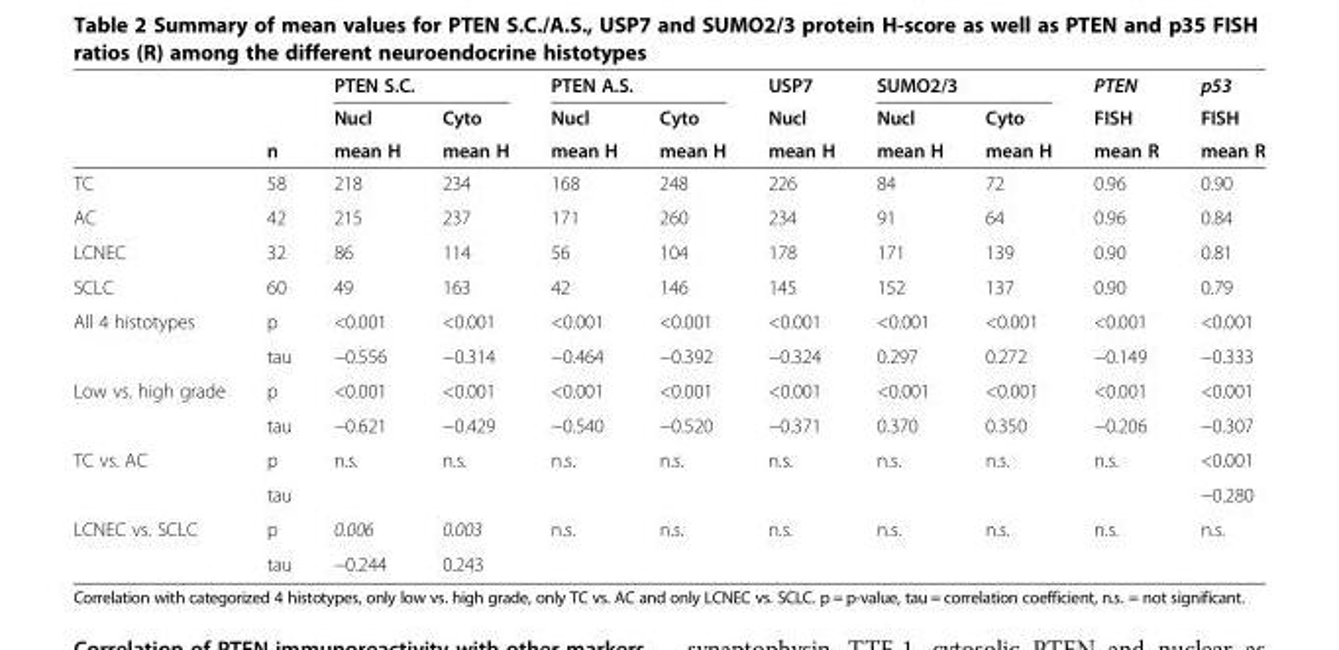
<table><thead><tr><td rowspan="3"></td><td rowspan="3">n</td><td colspan="2">PTEN S.C.</td><td colspan="2">PTEN A.S.</td><td rowspan="3">USP7 Nucl mean H</td><td colspan="2">SUMO2/3</td><td rowspan="3">PTEN FISH mean R</td><td rowspan="3">p53 FISH mean R</td></tr><tr><td rowspan="2">Nucl mean H</td><td rowspan="2">Cyto mean H</td><td rowspan="2">Nucl mean H</td><td rowspan="2">Cyto mean H</td><td rowspan="2">Nucl mean H</td><td rowspan="2">Cyto mean H</td></tr><tr></tr></thead><tbody><tr><td>TC</td><td>58</td><td>218</td><td>234</td><td>168</td><td>248</td><td>226</td><td>84</td><td>72</td><td>0.96</td><td>0.90</td></tr><tr><td>AC</td><td>42</td><td>215</td><td>237</td><td>171</td><td>260</td><td>234</td><td>91</td><td>64</td><td>0.96</td><td>0.84</td></tr><tr><td>LCNEC</td><td>32</td><td>86</td><td>114</td><td>56</td><td>104</td><td>178</td><td>171</td><td>139</td><td>0.90</td><td>0.81</td></tr><tr><td>SCLC</td><td>60</td><td>49</td><td>163</td><td>42</td><td>146</td><td>145</td><td>152</td><td>137</td><td>0.90</td><td>0.79</td></tr><tr><td rowspan="2">All 4 histotypes</td><td>p</td><td>&lt;0.001</td><td>&lt;0.001</td><td>&lt;0.001</td><td>&lt;0.001</td><td>&lt;0.001</td><td>&lt;0.001</td><td>&lt;0.001</td><td>&lt;0.001</td><td>&lt;0.001</td></tr><tr><td>tau</td><td>−0.556</td><td>−0.314</td><td>−0.464</td><td>−0.392</td><td>−0.324</td><td>0.297</td><td>0.272</td><td>−0.149</td><td>−0.333</td></tr><tr><td rowspan="2">Low vs. high grade</td><td>p</td><td>&lt;0.001</td><td>&lt;0.001</td><td>&lt;0.001</td><td>&lt;0.001</td><td>&lt;0.001</td><td>&lt;0.001</td><td>&lt;0.001</td><td>&lt;0.001</td><td>&lt;0.001</td></tr><tr><td>tau</td><td>−0.621</td><td>−0.429</td><td>−0.540</td><td>−0.520</td><td>−0.371</td><td>0.370</td><td>0.350</td><td>−0.206</td><td>−0.307</td></tr><tr><td rowspan="2">TC vs. AC</td><td>p</td><td>n.s.</td><td>n.s.</td><td>n.s.</td><td>n.s.</td><td>n.s.</td><td>n.s.</td><td>n.s.</td><td>n.s.</td><td>&lt;0.001</td></tr><tr><td>tau</td><td></td><td></td><td></td><td></td><td></td><td></td><td></td><td></td><td>−0.280</td></tr><tr><td rowspan="2">LCNEC vs. SCLC</td><td>p</td><td>0.006</td><td>0.003</td><td>n.s.</td><td>n.s.</td><td>n.s.</td><td>n.s.</td><td>n.s.</td><td>n.s.</td><td>n.s.</td></tr><tr><td>tau</td><td>−0.244</td><td>0.243</td><td></td><td></td><td></td><td></td><td></td><td></td><td></td></tr></tbody></table>